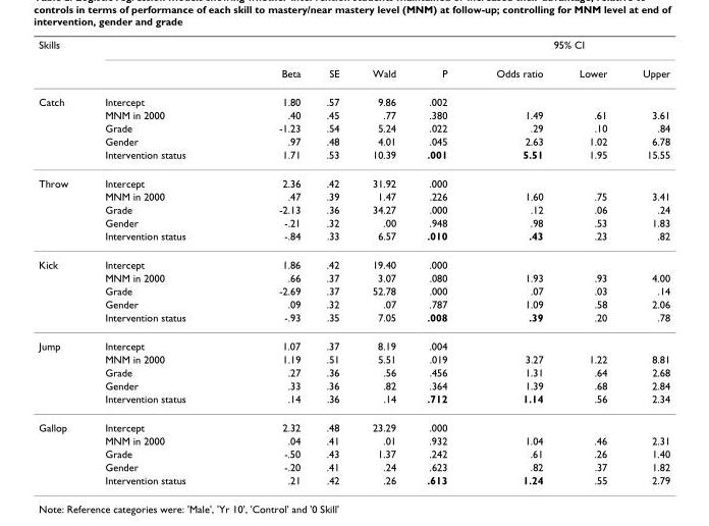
<table><thead><tr><td rowspan="2">Skills</td><td rowspan="2"></td><td rowspan="2">Beta</td><td rowspan="2">SE</td><td rowspan="2">Wald</td><td rowspan="2">P</td><td rowspan="2">Odds ratio</td><td colspan="2">95% CI</td></tr><tr><td>Lower</td><td>Upper</td></tr></thead><tbody><tr><td rowspan="5">Catch</td><td>Intercept</td><td>1.80</td><td>.57</td><td>9.86</td><td>.002</td><td></td><td></td><td></td></tr><tr><td>MNM in 2000</td><td>.40</td><td>.45</td><td>.77</td><td>.380</td><td>1.49</td><td>.61</td><td>3.61</td></tr><tr><td>Grade</td><td>-1.23</td><td>.54</td><td>5.24</td><td>.022</td><td>.29</td><td>.10</td><td>.84</td></tr><tr><td>Gender</td><td>.97</td><td>.48</td><td>4.01</td><td>.045</td><td>2.63</td><td>1.02</td><td>6.78</td></tr><tr><td>Intervention status</td><td>1.71</td><td>.53</td><td>10.39</td><td>.001</td><td>5.51</td><td>1.95</td><td>15.55</td></tr><tr><td rowspan="5">Throw</td><td>Intercept</td><td>2.36</td><td>.42</td><td>31.92</td><td>.000</td><td></td><td></td><td></td></tr><tr><td>MNM in 2000</td><td>.47</td><td>.39</td><td>1.47</td><td>.226</td><td>1.60</td><td>.75</td><td>3.41</td></tr><tr><td>Grade</td><td>-2.13</td><td>.36</td><td>34.27</td><td>.000</td><td>.12</td><td>.06</td><td>.24</td></tr><tr><td>Gender</td><td>-.21</td><td>.32</td><td>.00</td><td>.948</td><td>.98</td><td>.53</td><td>1.83</td></tr><tr><td>Intervention status</td><td>-.84</td><td>.33</td><td>6.57</td><td>.010</td><td>.43</td><td>.23</td><td>.82</td></tr><tr><td rowspan="5">Kick</td><td>Intercept</td><td>1.86</td><td>.42</td><td>19.40</td><td>.000</td><td></td><td></td><td></td></tr><tr><td>MNM in 2000</td><td>.66</td><td>.37</td><td>3.07</td><td>.080</td><td>1.93</td><td>.93</td><td>4.00</td></tr><tr><td>Grade</td><td>-2.69</td><td>.37</td><td>52.78</td><td>.000</td><td>.07</td><td>.03</td><td>.14</td></tr><tr><td>Gender</td><td>.09</td><td>.32</td><td>.07</td><td>.787</td><td>1.09</td><td>.58</td><td>2.06</td></tr><tr><td>Intervention status</td><td>-.93</td><td>.35</td><td>7.05</td><td>.008</td><td>.39</td><td>.20</td><td>.78</td></tr><tr><td rowspan="5">Jump</td><td>Intercept</td><td>1.07</td><td>.37</td><td>8.19</td><td>.004</td><td></td><td></td><td></td></tr><tr><td>MNM in 2000</td><td>1.19</td><td>.51</td><td>5.51</td><td>.019</td><td>3.27</td><td>1.22</td><td>8.81</td></tr><tr><td>Grade</td><td>.27</td><td>.36</td><td>.56</td><td>.456</td><td>1.31</td><td>.64</td><td>2.68</td></tr><tr><td>Gender</td><td>.33</td><td>.36</td><td>.82</td><td>.364</td><td>1.39</td><td>.68</td><td>2.84</td></tr><tr><td>Intervention status</td><td>.14</td><td>.36</td><td>.14</td><td>.712</td><td>1.14</td><td>.56</td><td>2.34</td></tr><tr><td rowspan="5">Gallop</td><td>Intercept</td><td>2.32</td><td>.48</td><td>23.29</td><td>.000</td><td></td><td></td><td></td></tr><tr><td>MNM in 2000</td><td>.04</td><td>.41</td><td>.01</td><td>.932</td><td>1.04</td><td>.46</td><td>2.31</td></tr><tr><td>Grade</td><td>-.50</td><td>.43</td><td>1.37</td><td>.242</td><td>.61</td><td>.26</td><td>1.40</td></tr><tr><td>Gender</td><td>-.20</td><td>.41</td><td>.24</td><td>.623</td><td>.82</td><td>.37</td><td>1.82</td></tr><tr><td>Intervention status</td><td>.21</td><td>.42</td><td>.26</td><td>.613</td><td>1.24</td><td>.55</td><td>2.79</td></tr></tbody></table>